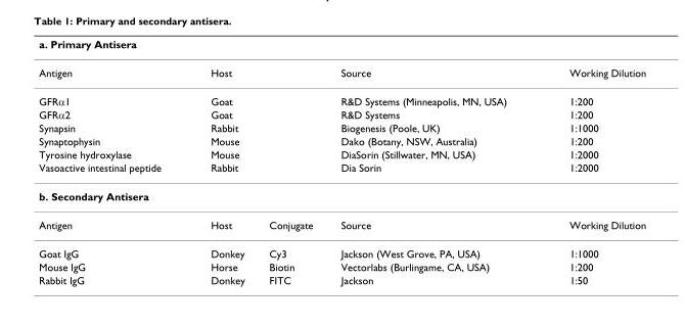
<table><thead><tr><td colspan="5">a. Primary Antisera</td></tr><tr><td>Antigen</td><td>Host</td><td></td><td>Source</td><td>Working Dilution</td></tr></thead><tbody><tr><td>GFRα1</td><td>Goat</td><td></td><td>R&amp;D Systems (Minneapolis, MN, USA)</td><td>1:200</td></tr><tr><td>GFRα2</td><td>Goat</td><td></td><td>R&amp;D Systems</td><td>1:200</td></tr><tr><td>Synapsin</td><td>Rabbit</td><td></td><td>Biogenesis (Poole, UK)</td><td>1:1000</td></tr><tr><td>Synaptophysin</td><td>Mouse</td><td></td><td>Dako (Botany, NSW, Australia)</td><td>1:200</td></tr><tr><td>Tyrosine hydroxylase</td><td>Mouse</td><td></td><td>DiaSorin (Stillwater, MN, USA)</td><td>1:2000</td></tr><tr><td>Vasoactive intestinal peptide</td><td>Rabbit</td><td></td><td>Dia Sorin</td><td>1:2000</td></tr><tr><td colspan="5">b. Secondary Antisera</td></tr><tr><td>Antigen</td><td>Host</td><td>Conjugate</td><td>Source</td><td>Working Dilution</td></tr><tr><td>Goat IgG</td><td>Donkey</td><td>Cy3</td><td>Jackson (West Grove, PA, USA)</td><td>1:1000</td></tr><tr><td>Mouse IgG</td><td>Horse</td><td>Biotin</td><td>Vectorlabs (Burlingame, CA, USA)</td><td>1:200</td></tr><tr><td>Rabbit IgG</td><td>Donkey</td><td>FITC</td><td>Jackson</td><td>1:50</td></tr></tbody></table>